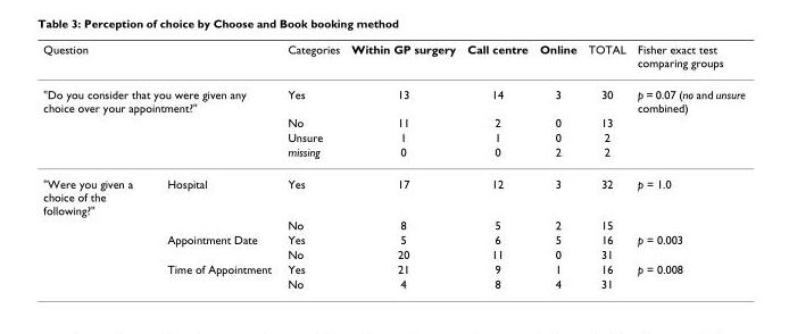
<table><thead><tr><td rowspan="2" colspan="2">Question &quot;Do you consider that you were given any choice over your appointment?&quot;</td><td rowspan="3">Categories Yes No</td><td rowspan="3">Within GP surgery 13 11</td><td rowspan="3">Call centre 14 2</td><td rowspan="3">Online 3 0</td><td rowspan="3">TOTAL 30 13</td><td rowspan="3">Fisher exact test comparing groups p = 0.07 (no and unsure combined)</td></tr><tr></tr><tr><td></td><td></td></tr></thead><tbody><tr><td></td><td></td><td>Unsure</td><td>1</td><td>1</td><td>0</td><td>2</td><td></td></tr><tr><td></td><td></td><td>missing</td><td>0</td><td>0</td><td>2</td><td>2</td><td></td></tr><tr><td rowspan="6">&quot;Were you given a choice of the following?&quot;</td><td>Hospital</td><td>Yes</td><td>17</td><td>12</td><td>3</td><td>32</td><td>p = 1.0</td></tr><tr><td></td><td>No</td><td>8</td><td>5</td><td>2</td><td>15</td><td></td></tr><tr><td>Appointment Date</td><td>Yes</td><td>5</td><td>6</td><td>5</td><td>16</td><td>p = 0.003</td></tr><tr><td></td><td>No</td><td>20</td><td>11</td><td>0</td><td>31</td><td></td></tr><tr><td>Time of Appointment</td><td>Yes</td><td>21</td><td>9</td><td>1</td><td>16</td><td>p = 0.008</td></tr><tr><td></td><td>No</td><td>4</td><td>8</td><td>4</td><td>31</td><td></td></tr></tbody></table>